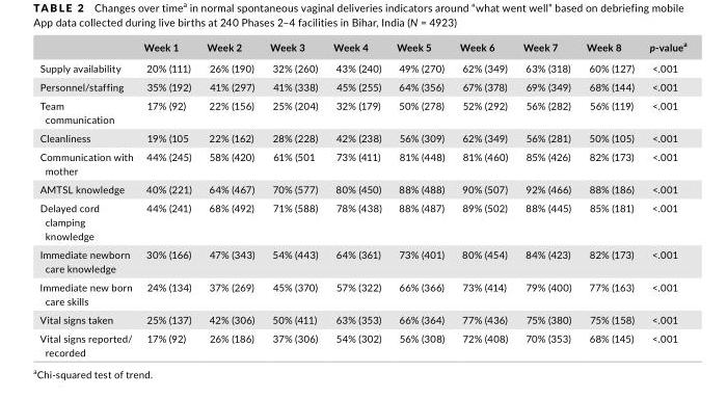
<table><thead><tr><td></td><td>Week 1</td><td>Week 2</td><td>Week 3</td><td>Week 4</td><td>Week 5</td><td>Week 6</td><td>Week 7</td><td>Week 8</td><td>p- value<sup>a</sup></td></tr></thead><tbody><tr><td>Supply availability</td><td>20% (111)</td><td>26% (190)</td><td>32% (260)</td><td>43% (240)</td><td>49% (270)</td><td>62% (349)</td><td>63% (318)</td><td>60% (127)</td><td>&lt;.001</td></tr><tr><td>Personnel/staffing</td><td>35% (192)</td><td>41% (297)</td><td>41% (338)</td><td>45% (255)</td><td>64% (356)</td><td>67% (378)</td><td>69% (349)</td><td>68% (144)</td><td>&lt;.001</td></tr><tr><td>Team communication</td><td>17% (92)</td><td>22% (156)</td><td>25% (204)</td><td>32% (179)</td><td>50% (278)</td><td>52% (292)</td><td>56% (282)</td><td>56% (119)</td><td>&lt;.001</td></tr><tr><td>Cleanliness</td><td>19% (105</td><td>22% (162)</td><td>28% (228)</td><td>42% (238)</td><td>56% (309)</td><td>62% (349)</td><td>56% (281)</td><td>50% (105)</td><td>&lt;.001</td></tr><tr><td>Communication with mother</td><td>44% (245)</td><td>58% (420)</td><td>61% (501</td><td>73% (411)</td><td>81% (448)</td><td>81% (460)</td><td>85% (426)</td><td>82% (173)</td><td>&lt;.001</td></tr><tr><td>AMTSL knowledge</td><td>40% (221)</td><td>64% (467)</td><td>70% (577)</td><td>80% (450)</td><td>88% (488)</td><td>90% (507)</td><td>92% (466)</td><td>88% (186)</td><td>&lt;.001</td></tr><tr><td>Delayed cord clamping knowledge</td><td>44% (241)</td><td>68% (492)</td><td>71% (588)</td><td>78% (438)</td><td>88% (487)</td><td>89% (502)</td><td>88% (445)</td><td>85% (181)</td><td>&lt;.001</td></tr><tr><td>Immediate newborn care knowledge</td><td>30% (166)</td><td>47% (343)</td><td>54% (443)</td><td>64% (361)</td><td>73% (401)</td><td>80% (454)</td><td>84% (423)</td><td>82% (173)</td><td>&lt;.001</td></tr><tr><td>Immediate new born care skills</td><td>24% (134)</td><td>37% (269)</td><td>45% (370)</td><td>57% (322)</td><td>66% (366)</td><td>73% (414)</td><td>79% (400)</td><td>77% (163)</td><td>&lt;.001</td></tr><tr><td>Vital signs taken</td><td>25% (137)</td><td>42% (306)</td><td>50% (411)</td><td>63% (353)</td><td>66% (364)</td><td>77% (436)</td><td>75% (380)</td><td>75% (158)</td><td>&lt;.001</td></tr><tr><td>Vital signs reported/ recorded</td><td>17% (92)</td><td>26% (186)</td><td>37% (306)</td><td>54% (302)</td><td>56% (308)</td><td>72% (408)</td><td>70% (353)</td><td>68% (145)</td><td>&lt;.001</td></tr></tbody></table>